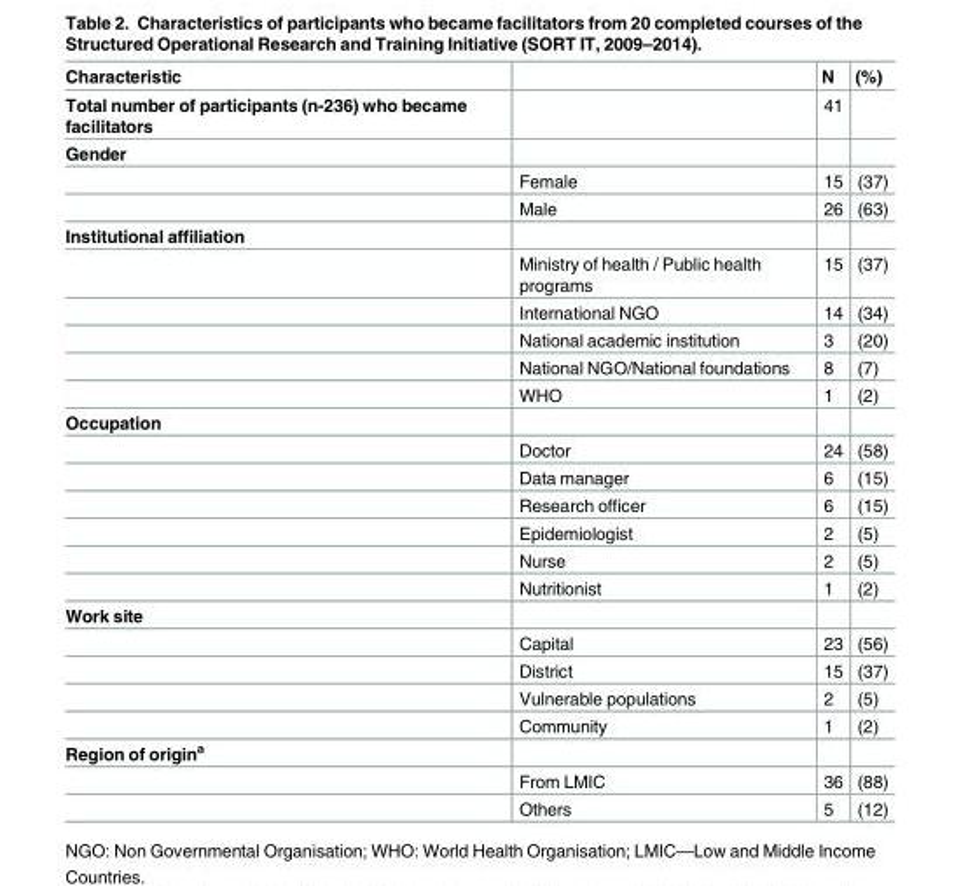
<table><thead><tr><td>Characteristic</td><td></td><td>N</td><td>(%)</td></tr></thead><tbody><tr><td>Total number of participants (n-236) who became facilitators</td><td></td><td>41</td><td></td></tr><tr><td colspan="4">Gender</td></tr><tr><td></td><td>Female</td><td>15</td><td>(37)</td></tr><tr><td></td><td>Male</td><td>26</td><td>(63)</td></tr><tr><td colspan="4">Institutional affiliation</td></tr><tr><td></td><td>Ministry of health / Public health programs</td><td>15</td><td>(37)</td></tr><tr><td></td><td>International NGO</td><td>14</td><td>(34)</td></tr><tr><td></td><td>National academic institution</td><td>3</td><td>(20)</td></tr><tr><td></td><td>National NGO/National foundations</td><td>8</td><td>(7)</td></tr><tr><td></td><td>WHO</td><td>1</td><td>(2)</td></tr><tr><td colspan="4">Occupation</td></tr><tr><td></td><td>Doctor</td><td>24</td><td>(58)</td></tr><tr><td></td><td>Data manager</td><td>6</td><td>(15)</td></tr><tr><td></td><td>Research officer</td><td>6</td><td>(15)</td></tr><tr><td></td><td>Epidemiologist</td><td>2</td><td>(5)</td></tr><tr><td></td><td>Nurse</td><td>2</td><td>(5)</td></tr><tr><td></td><td>Nutritionist</td><td>1</td><td>(2)</td></tr><tr><td colspan="4">Work site</td></tr><tr><td></td><td>Capital</td><td>23</td><td>(56)</td></tr><tr><td></td><td>District</td><td>15</td><td>(37)</td></tr><tr><td></td><td>Vulnerable populations</td><td>2</td><td>(5)</td></tr><tr><td></td><td>Community</td><td>1</td><td>(2)</td></tr><tr><td colspan="4">Region of origin<sup>a</sup></td></tr><tr><td></td><td>From LMIC</td><td>36</td><td>(88)</td></tr><tr><td></td><td>Others</td><td>5</td><td>(12)</td></tr></tbody></table>